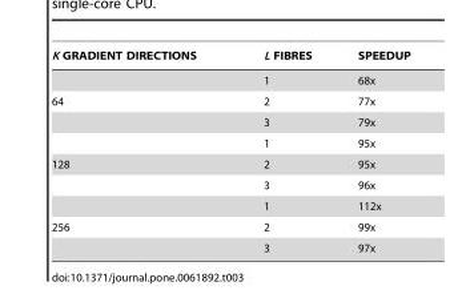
<table><thead><tr><td>K GRADIENT DIRECTIONS</td><td>L FIBRES</td><td>SPEEDUP</td></tr></thead><tbody><tr><td></td><td>1</td><td>68x</td></tr><tr><td rowspan="3">64</td><td>2</td><td>77x</td></tr><tr><td>3</td><td>79x</td></tr><tr><td>1</td><td>95x</td></tr><tr><td rowspan="3">128</td><td>2</td><td>95x</td></tr><tr><td>3</td><td>96x</td></tr><tr><td>1</td><td>112x</td></tr><tr><td rowspan="2">256</td><td>2</td><td>99x</td></tr><tr><td>3</td><td>97x</td></tr></tbody></table>